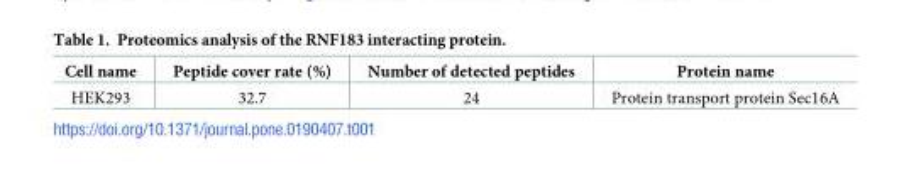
<table><thead><tr><td>Cell name</td><td>Peptide cover rate (%)</td><td>Number of detected peptides</td><td>Protein name</td></tr></thead><tbody><tr><td>HEK293</td><td>32.7</td><td>24</td><td>Protein transport protein Sec16A</td></tr></tbody></table>